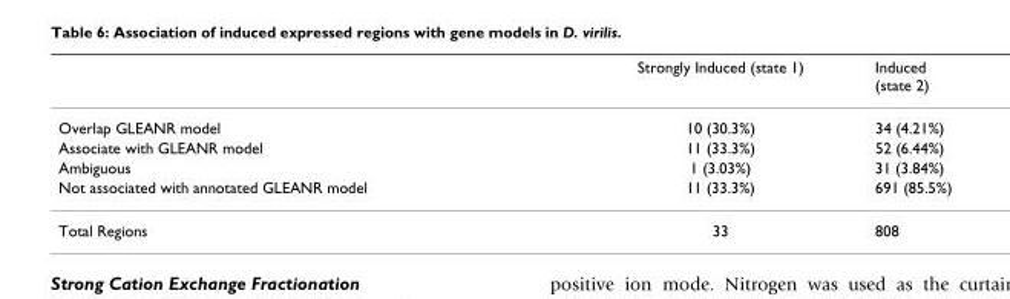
<table><thead><tr><td></td><td>Strongly Induced (state 1)</td><td>Induced (state 2)</td></tr></thead><tbody><tr><td>Overlap GLEANR model</td><td>10 (30.3%)</td><td>34 (4.21%)</td></tr><tr><td>Associate with GLEANR model</td><td>11 (33.3%)</td><td>52 (6.44%)</td></tr><tr><td>Ambiguous</td><td>1 (3.03%)</td><td>31 (3.84%)</td></tr><tr><td>Not associated with annotated GLEANR model</td><td>11 (33.3%)</td><td>691 (85.5%)</td></tr><tr><td>Total Regions</td><td>33</td><td>808</td></tr></tbody></table>